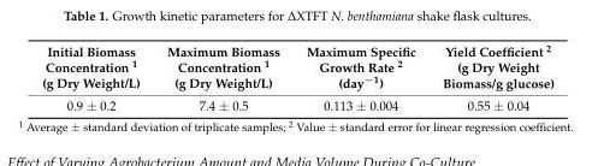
<table><thead><tr><td>Initial Biomass Concentration <sup>1</sup> (g Dry Weight/L)</td><td>Maximum Biomass Concentration <sup>1</sup> (g Dry Weight/L)</td><td>Maximum Specific Growth Rate <sup>2</sup> (day<sup>−1</sup>)</td><td>Yield Coefficient <sup>2</sup> (g Dry Weight Biomass/g glucose)</td></tr></thead><tbody><tr><td>0.9 ± 0.2</td><td>7.4 ± 0.5</td><td>0.113 ± 0.004</td><td>0.55 ± 0.04</td></tr></tbody></table>